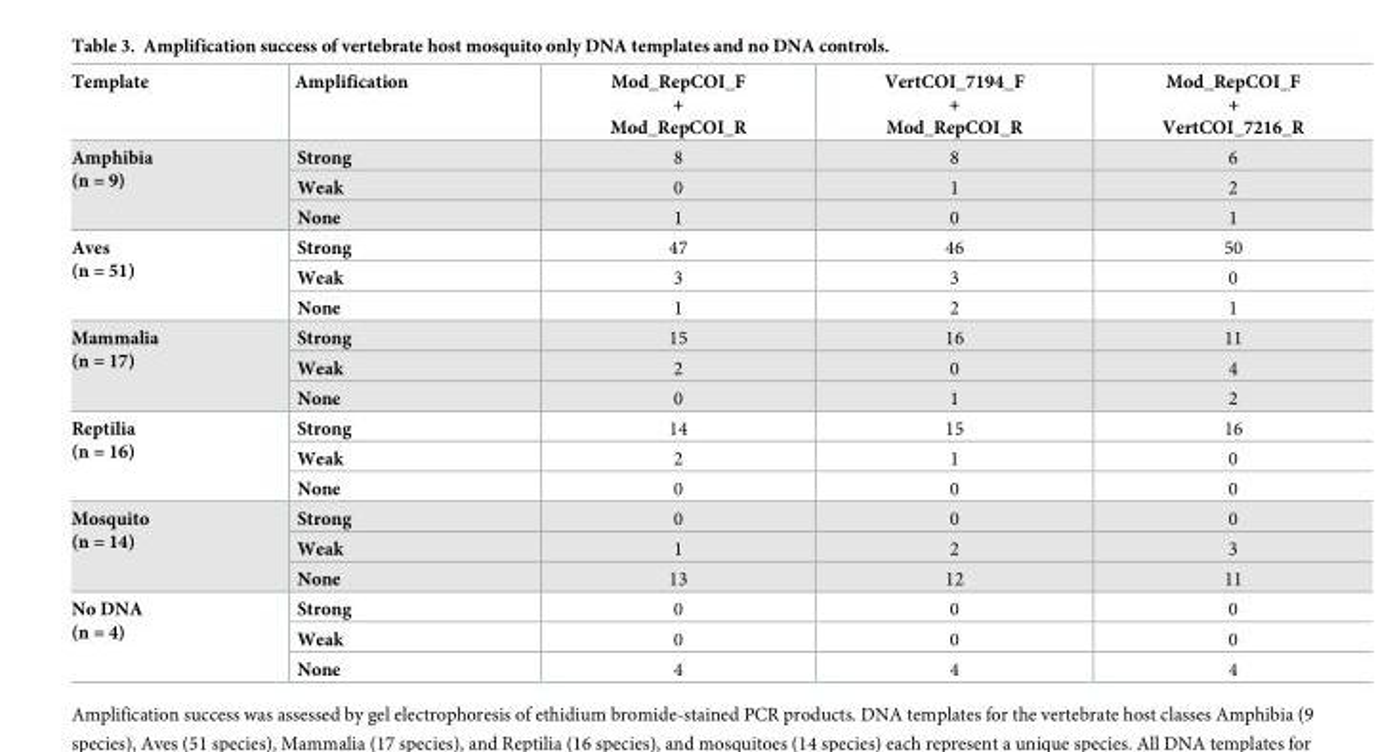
<table><thead><tr><td>Template</td><td>Amplification</td><td>Mod_RepCOI_F + Mod_RepCOI_R</td><td>VertCOI_7194_F + Mod_RepCOI_R</td><td>Mod_RepCOI_F + VertCOI_7216_R</td></tr></thead><tbody><tr><td rowspan="3">Amphibia (n = 9)</td><td>Strong</td><td>8</td><td>8</td><td>6</td></tr><tr><td>Weak</td><td>0</td><td>1</td><td>2</td></tr><tr><td>None</td><td>1</td><td>0</td><td>1</td></tr><tr><td rowspan="3">Aves (n = 51)</td><td>Strong</td><td>47</td><td>46</td><td>50</td></tr><tr><td>Weak</td><td>3</td><td>3</td><td>0</td></tr><tr><td>None</td><td>1</td><td>2</td><td>1</td></tr><tr><td rowspan="3">Mammalia (n = 17)</td><td>Strong</td><td>15</td><td>16</td><td>11</td></tr><tr><td>Weak</td><td>2</td><td>0</td><td>4</td></tr><tr><td>None</td><td>0</td><td>1</td><td>2</td></tr><tr><td rowspan="3">Reptilia (n = 16)</td><td>Strong</td><td>14</td><td>15</td><td>16</td></tr><tr><td>Weak</td><td>2</td><td>1</td><td>0</td></tr><tr><td>None</td><td>0</td><td>0</td><td>0</td></tr><tr><td rowspan="3">Mosquito (n = 14)</td><td>Strong</td><td>0</td><td>0</td><td>0</td></tr><tr><td>Weak</td><td>1</td><td>2</td><td>3</td></tr><tr><td>None</td><td>13</td><td>12</td><td>11</td></tr><tr><td rowspan="3">No DNA (n = 4)</td><td>Strong</td><td>0</td><td>0</td><td>0</td></tr><tr><td>Weak</td><td>0</td><td>0</td><td>0</td></tr><tr><td>None</td><td>4</td><td>4</td><td>4</td></tr></tbody></table>